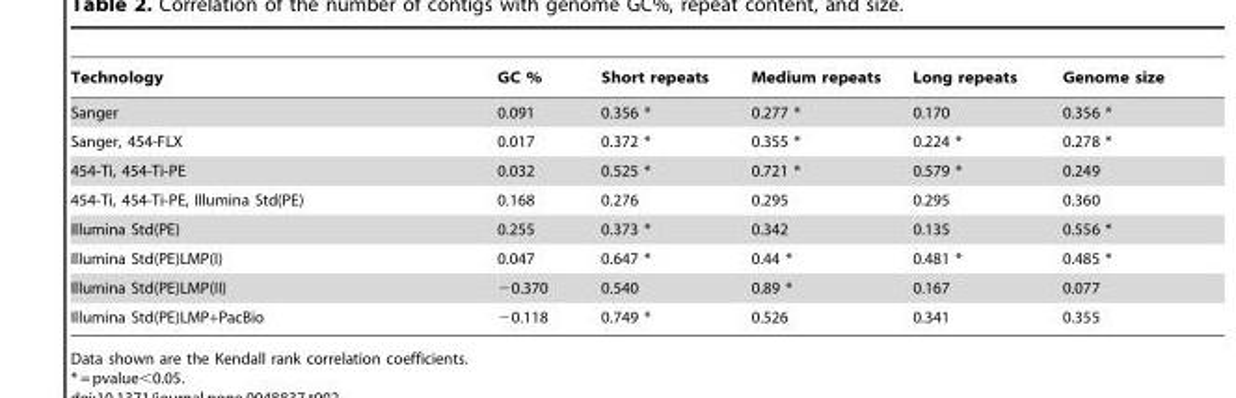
<table><thead><tr><td>Technology</td><td>GC %</td><td>Short repeats</td><td>Medium repeats</td><td>Long repeats</td><td>Genome size</td></tr></thead><tbody><tr><td>Sanger</td><td>0.091</td><td>0.356 *</td><td>0.277 *</td><td>0.170</td><td>0.356 *</td></tr><tr><td>Sanger, 454-FLX</td><td>0.017</td><td>0.372 *</td><td>0.355 *</td><td>0.224 *</td><td>0.278 *</td></tr><tr><td>454-Ti, 454-Ti-PE</td><td>0.032</td><td>0.525 *</td><td>0.721 *</td><td>0.579 *</td><td>0.249</td></tr><tr><td>454-Ti, 454-Ti-PE, Illumina Std(PE)</td><td>0.168</td><td>0.276</td><td>0.295</td><td>0.295</td><td>0.360</td></tr><tr><td>Illumina Std(PE)</td><td>0.255</td><td>0.373 *</td><td>0.342</td><td>0.135</td><td>0.556 *</td></tr><tr><td>Illumina Std(PE)LMP(I)</td><td>0.047</td><td>0.647 *</td><td>0.44 *</td><td>0.481 *</td><td>0.485 *</td></tr><tr><td>Illumina Std(PE)LMP(II)</td><td>−0.370</td><td>0.540</td><td>0.89 *</td><td>0.167</td><td>0.077</td></tr><tr><td>Illumina Std(PE)LMP+PacBio</td><td>−0.118</td><td>0.749 *</td><td>0.526</td><td>0.341</td><td>0.355</td></tr></tbody></table>